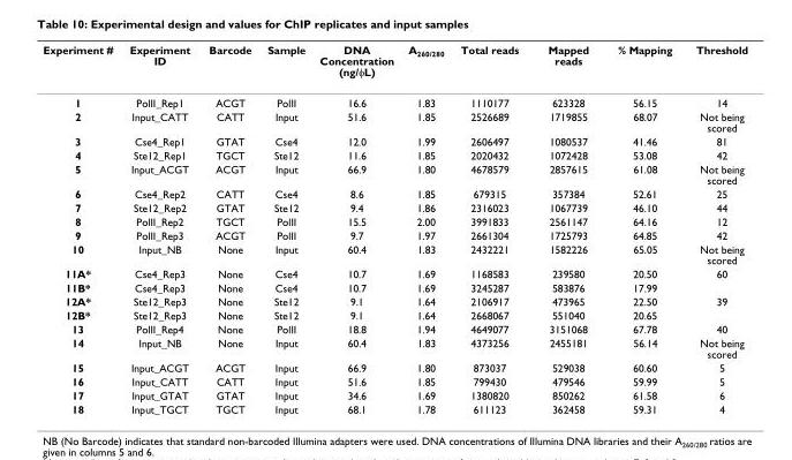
<table><thead><tr><td>Experiment #</td><td>Experiment ID</td><td>Barcode</td><td>Sample</td><td>DNA Concentration (ng/φL)</td><td>A<sub>260/280</sub></td><td>Total reads</td><td>Mapped reads</td><td>% Mapping</td><td>Threshold</td></tr></thead><tbody><tr><td>1</td><td>PolII_Rep1</td><td>ACGT</td><td>PolII</td><td>16.6</td><td>1.83</td><td>1110177</td><td>623328</td><td>56.15</td><td>14</td></tr><tr><td>2</td><td>Input_CATT</td><td>CATT</td><td>Input</td><td>51.6</td><td>1.85</td><td>2526689</td><td>1719855</td><td>68.07</td><td>Not being scored</td></tr><tr><td>3</td><td>Cse4_Rep1</td><td>GTAT</td><td>Cse4</td><td>12.0</td><td>1.99</td><td>2606497</td><td>1080537</td><td>41.46</td><td>81</td></tr><tr><td>4</td><td>Ste12_Rep1</td><td>TGCT</td><td>Ste12</td><td>11.6</td><td>1.85</td><td>2020432</td><td>1072428</td><td>53.08</td><td>42</td></tr><tr><td>5</td><td>Input_ACGT</td><td>ACGT</td><td>Input</td><td>66.9</td><td>1.80</td><td>4678579</td><td>2857615</td><td>61.08</td><td>Not being scored</td></tr><tr><td>6</td><td>Cse4_Rep2</td><td>CATT</td><td>Cse4</td><td>8.6</td><td>1.85</td><td>679315</td><td>357384</td><td>52.61</td><td>25</td></tr><tr><td>7</td><td>Ste12_Rep2</td><td>GTAT</td><td>Ste12</td><td>9.4</td><td>1.86</td><td>2316023</td><td>1067739</td><td>46.10</td><td>44</td></tr><tr><td>8</td><td>PolII_Rep2</td><td>TGCT</td><td>PolII</td><td>15.5</td><td>2.00</td><td>3991833</td><td>2561147</td><td>64.16</td><td>12</td></tr><tr><td>9</td><td>PolII_Rep3</td><td>ACGT</td><td>PolII</td><td>9.7</td><td>1.97</td><td>2661304</td><td>1725793</td><td>64.85</td><td>42</td></tr><tr><td>10</td><td>Input_NB</td><td>None</td><td>Input</td><td>60.4</td><td>1.83</td><td>2432221</td><td>1582226</td><td>65.05</td><td>Not being scored</td></tr><tr><td>11A*</td><td>Cse4_Rep3</td><td>None</td><td>Cse4</td><td>10.7</td><td>1.69</td><td>1168583</td><td>239580</td><td>20.50</td><td>60</td></tr><tr><td>11B*</td><td>Cse4_Rep3</td><td>None</td><td>Cse4</td><td>10.7</td><td>1.69</td><td>3245287</td><td>583876</td><td>17.99</td><td></td></tr><tr><td>12A*</td><td>Ste12_Rep3</td><td>None</td><td>Ste12</td><td>9.1</td><td>1.64</td><td>2106917</td><td>473965</td><td>22.50</td><td>39</td></tr><tr><td>12B*</td><td>Ste12_Rep3</td><td>None</td><td>Ste12</td><td>9.1</td><td>1.64</td><td>2668067</td><td>551040</td><td>20.65</td><td></td></tr><tr><td>13</td><td>PolII_Rep4</td><td>None</td><td>PolII</td><td>18.8</td><td>1.94</td><td>4649077</td><td>3151068</td><td>67.78</td><td>40</td></tr><tr><td>14</td><td>Input_NB</td><td>None</td><td>Input</td><td>60.4</td><td>1.83</td><td>4373256</td><td>2455181</td><td>56.14</td><td>Not being scored</td></tr><tr><td>15</td><td>Input_ACGT</td><td>ACGT</td><td>Input</td><td>66.9</td><td>1.80</td><td>873037</td><td>529038</td><td>60.60</td><td>5</td></tr><tr><td>16</td><td>Input_CATT</td><td>CATT</td><td>Input</td><td>51.6</td><td>1.85</td><td>799430</td><td>479546</td><td>59.99</td><td>5</td></tr><tr><td>17</td><td>Input_GTAT</td><td>GTAT</td><td>Input</td><td>34.6</td><td>1.69</td><td>1380820</td><td>850262</td><td>61.58</td><td>6</td></tr><tr><td>18</td><td>Input_TGCT</td><td>TGCT</td><td>Input</td><td>68.1</td><td>1.78</td><td>611123</td><td>362458</td><td>59.31</td><td>4</td></tr></tbody></table>